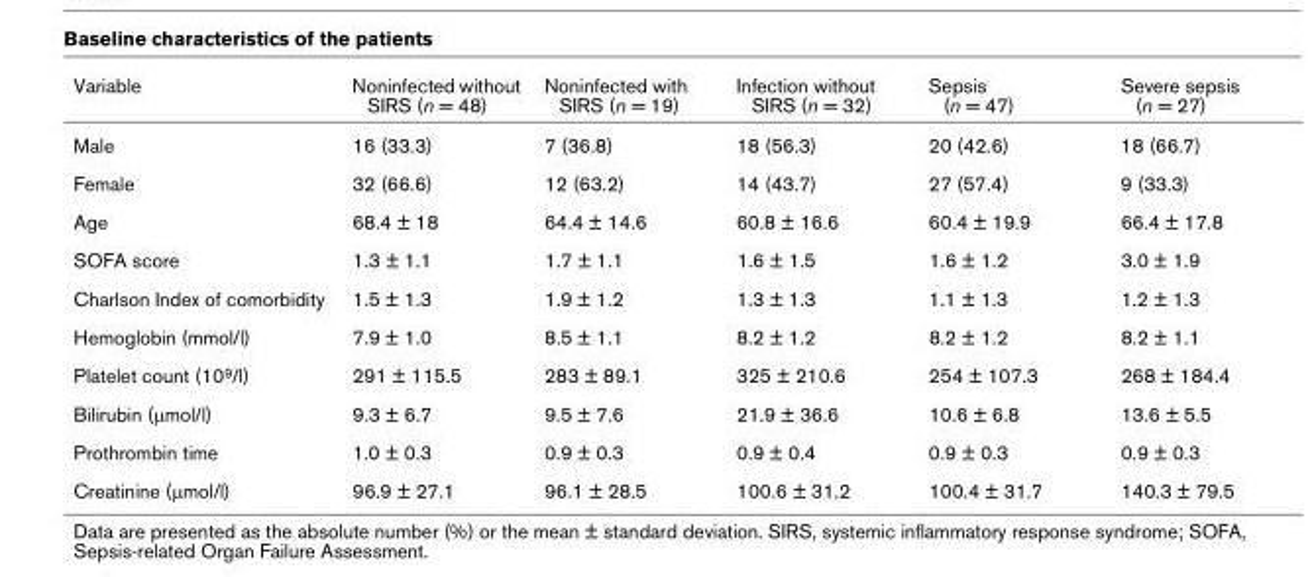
<table><thead><tr><td>Variable</td><td>Noninfected without SIRS (n = 48)</td><td>Noninfected with SIRS (n = 19)</td><td>Infection without SIRS (n = 32)</td><td>Sepsis (n = 47)</td><td>Severe sepsis (n = 27)</td></tr></thead><tbody><tr><td>Male</td><td>16 (33.3)</td><td>7 (36.8)</td><td>18 (56.3)</td><td>20 (42.6)</td><td>18 (66.7)</td></tr><tr><td>Female</td><td>32 (66.6)</td><td>12 (63.2)</td><td>14 (43.7)</td><td>27 (57.4)</td><td>9 (33.3)</td></tr><tr><td>Age</td><td>68.4 ± 18</td><td>64.4 ± 14.6</td><td>60.8 ± 16.6</td><td>60.4 ± 19.9</td><td>66.4 ± 17.8</td></tr><tr><td>SOFA score</td><td>1.3 ± 1.1</td><td>1.7 ± 1.1</td><td>1.6 ± 1.5</td><td>1.6 ± 1.2</td><td>3.0 ± 1.9</td></tr><tr><td>Charlson Index of comorbidity</td><td>1.5 ± 1.3</td><td>1.9 ± 1.2</td><td>1.3 ± 1.3</td><td>1.1 ± 1.3</td><td>1.2 ± 1.3</td></tr><tr><td>Hemoglobin (mmol/l)</td><td>7.9 ± 1.0</td><td>8.5 ± 1.1</td><td>8.2 ± 1.2</td><td>8.2 ± 1.2</td><td>8.2 ± 1.1</td></tr><tr><td>Platelet count (109/l)</td><td>291 ± 115.5</td><td>283 ± 89.1</td><td>325 ± 210.6</td><td>254 ± 107.3</td><td>268 ± 184.4</td></tr><tr><td>Bilirubin (µmol/l)</td><td>9.3 ± 6.7</td><td>9.5 ± 7.6</td><td>21.9 ± 36.6</td><td>10.6 ± 6.8</td><td>13.6 ± 5.5</td></tr><tr><td>Prothrombin time</td><td>1.0 ± 0.3</td><td>0.9 ± 0.3</td><td>0.9 ± 0.4</td><td>0.9 ± 0.3</td><td>0.9 ± 0.3</td></tr><tr><td>Creatinine (µmol/l)</td><td>96.9 ± 27.1</td><td>96.1 ± 28.5</td><td>100.6 ± 31.2</td><td>100.4 ± 31.7</td><td>140.3 ± 79.5</td></tr></tbody></table>